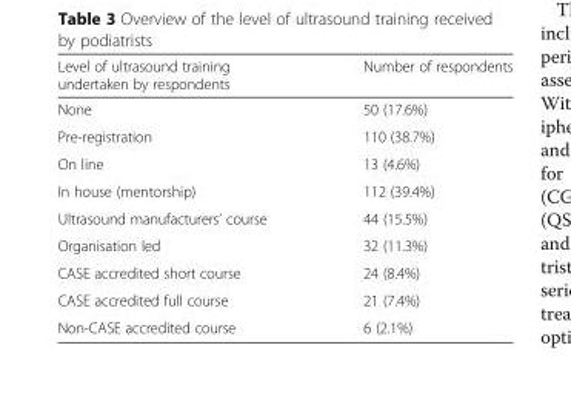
<table><thead><tr><td>Level of ultrasound training undertaken by respondents</td><td>Number of respondents</td></tr></thead><tbody><tr><td>None</td><td>50 (17.6%)</td></tr><tr><td>Pre-registration</td><td>110 (38.7%)</td></tr><tr><td>On line</td><td>13 (4.6%)</td></tr><tr><td>In house (mentorship)</td><td>112 (39.4%)</td></tr><tr><td>Ultrasound manufacturers’ course</td><td>44 (15.5%)</td></tr><tr><td>Organisation led</td><td>32 (11.3%)</td></tr><tr><td>CASE accredited short course</td><td>24 (8.4%)</td></tr><tr><td>CASE accredited full course</td><td>21 (7.4%)</td></tr><tr><td>Non-CASE accredited course</td><td>6 (2.1%)</td></tr></tbody></table>